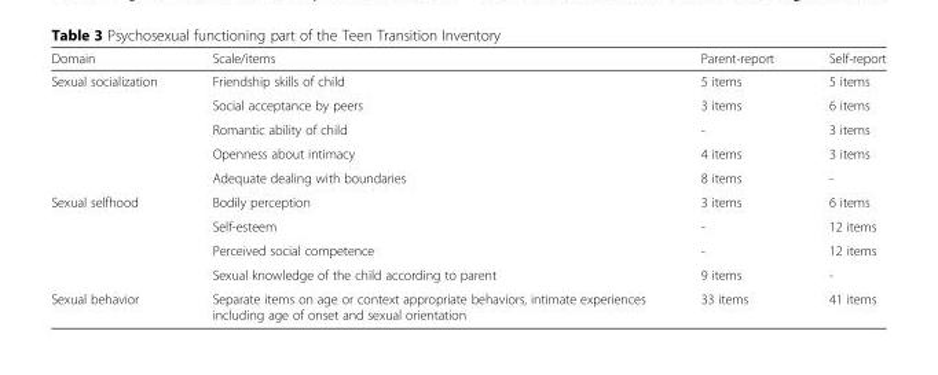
<table><thead><tr><td>Domain</td><td>Scale/items</td><td>Parent-report</td><td>Self-report</td></tr></thead><tbody><tr><td rowspan="5">Sexual socialization</td><td>Friendship skills of child</td><td>5 items</td><td>5 items</td></tr><tr><td>Social acceptance by peers</td><td>3 items</td><td>6 items</td></tr><tr><td>Romantic ability of child</td><td>-</td><td>3 items</td></tr><tr><td>Openness about intimacy</td><td>4 items</td><td>3 items</td></tr><tr><td>Adequate dealing with boundaries</td><td>8 items</td><td>-</td></tr><tr><td rowspan="4">Sexual selfhood</td><td>Bodily perception</td><td>3 items</td><td>6 items</td></tr><tr><td>Self-esteem</td><td>-</td><td>12 items</td></tr><tr><td>Perceived social competence</td><td>-</td><td>12 items</td></tr><tr><td>Sexual knowledge of the child according to parent</td><td>9 items</td><td>-</td></tr><tr><td>Sexual behavior</td><td>Separate items on age or context appropriate behaviors, intimate experiences including age of onset and sexual orientation</td><td>33 items</td><td>41 items</td></tr></tbody></table>